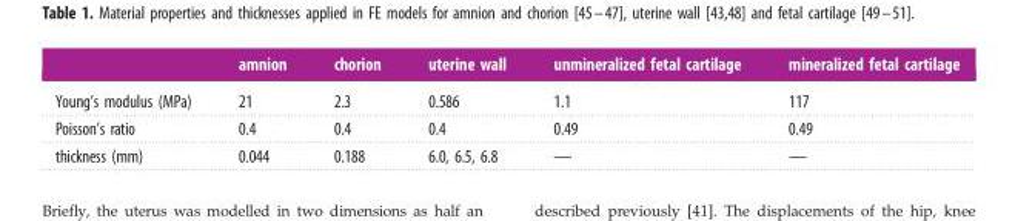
<table><thead><tr><td></td><td>amnion</td><td>chorion</td><td>uterine wall</td><td>unmineralized fetal cartilage</td><td>mineralized fetal cartilage</td></tr></thead><tbody><tr><td>Young’s modulus (MPa)</td><td>21</td><td>2.3</td><td>0.586</td><td>1.1</td><td>117</td></tr><tr><td>Poisson’s ratio</td><td>0.4</td><td>0.4</td><td>0.4</td><td>0.49</td><td>0.49</td></tr><tr><td>thickness (mm)</td><td>0.044</td><td>0.188</td><td>6.0, 6.5, 6.8</td><td>—</td><td>—</td></tr></tbody></table>